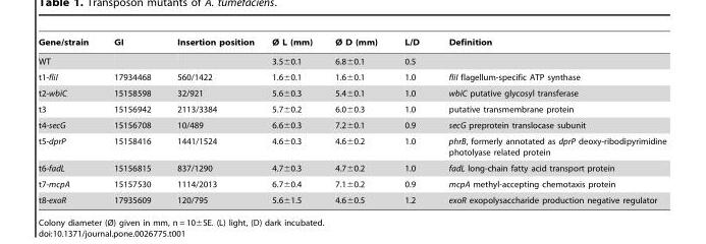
<table><thead><tr><td>Gene/strain</td><td>GI</td><td>Insertion position</td><td>Ø L (mm)</td><td>Ø D (mm)</td><td>L/D</td><td>Definition</td></tr></thead><tbody><tr><td>WT</td><td></td><td></td><td>3.5±0.1</td><td>6.8±0.1</td><td>0.5</td><td></td></tr><tr><td>t1-fliI</td><td>17934468</td><td>560/1422</td><td>1.6±0.1</td><td>1.6±0.1</td><td>1.0</td><td>fliI flagellum-specific ATP synthase</td></tr><tr><td>t2-wbiC</td><td>15158598</td><td>32/921</td><td>5.6±0.3</td><td>5.4±0.1</td><td>1.0</td><td>wbiC putative glycosyl transferase</td></tr><tr><td>t3</td><td>15156942</td><td>2113/3384</td><td>5.7±0.2</td><td>6.0±0.3</td><td>1.0</td><td>putative transmembrane protein</td></tr><tr><td>t4-secG</td><td>15156708</td><td>10/489</td><td>6.6±0.3</td><td>7.2±0.1</td><td>0.9</td><td>secG preprotein translocase subunit</td></tr><tr><td>t5-dprP</td><td>15158416</td><td>1441/1524</td><td>4.6±0.3</td><td>4.6±0.2</td><td>1.0</td><td>phrB, formerly annotated as dprP deoxy-ribodipyrimidine photolyase related protein</td></tr><tr><td>t6-fadL</td><td>15156815</td><td>837/1290</td><td>4.7±0.3</td><td>4.7±0.2</td><td>1.0</td><td>fadL long-chain fatty acid transport protein</td></tr><tr><td>t7-mcpA</td><td>15157530</td><td>1114/2013</td><td>6.7±0.4</td><td>7.1±0.2</td><td>0.9</td><td>mcpA methyl-accepting chemotaxis protein</td></tr><tr><td>t8-exoR</td><td>17935609</td><td>120/795</td><td>5.6±1.5</td><td>4.6±0.5</td><td>1.2</td><td>exoR exopolysaccharide production negative regulator</td></tr></tbody></table>